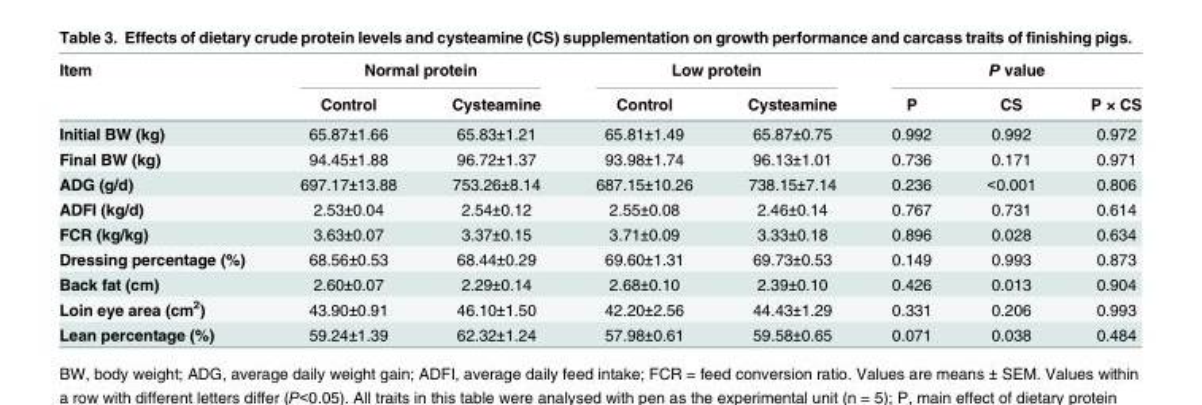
<table><thead><tr><td rowspan="2">Item</td><td colspan="2">Normal protein</td><td colspan="2">Low protein</td><td colspan="3">P value</td></tr><tr><td>Control</td><td>Cysteamine</td><td>Control</td><td>Cysteamine</td><td>P</td><td>CS</td><td>P × CS</td></tr></thead><tbody><tr><td>Initial BW (kg)</td><td>65.87±1.66</td><td>65.83±1.21</td><td>65.81±1.49</td><td>65.87±0.75</td><td>0.992</td><td>0.992</td><td>0.972</td></tr><tr><td>Final BW (kg)</td><td>94.45±1.88</td><td>96.72±1.37</td><td>93.98±1.74</td><td>96.13±1.01</td><td>0.736</td><td>0.171</td><td>0.971</td></tr><tr><td>ADG (g/d)</td><td>697.17±13.88</td><td>753.26±8.14</td><td>687.15±10.26</td><td>738.15±7.14</td><td>0.236</td><td>&lt;0.001</td><td>0.806</td></tr><tr><td>ADFI (kg/d)</td><td>2.53±0.04</td><td>2.54±0.12</td><td>2.55±0.08</td><td>2.46±0.14</td><td>0.767</td><td>0.731</td><td>0.614</td></tr><tr><td>FCR (kg/kg)</td><td>3.63±0.07</td><td>3.37±0.15</td><td>3.71±0.09</td><td>3.33±0.18</td><td>0.896</td><td>0.028</td><td>0.634</td></tr><tr><td>Dressing percentage (%)</td><td>68.56±0.53</td><td>68.44±0.29</td><td>69.60±1.31</td><td>69.73±0.53</td><td>0.149</td><td>0.993</td><td>0.873</td></tr><tr><td>Back fat (cm)</td><td>2.60±0.07</td><td>2.29±0.14</td><td>2.68±0.10</td><td>2.39±0.10</td><td>0.426</td><td>0.013</td><td>0.904</td></tr><tr><td>Loin eye area (cm<sup>2</sup>)</td><td>43.90±0.91</td><td>46.10±1.50</td><td>42.20±2.56</td><td>44.43±1.29</td><td>0.331</td><td>0.206</td><td>0.993</td></tr><tr><td>Lean percentage (%)</td><td>59.24±1.39</td><td>62.32±1.24</td><td>57.98±0.61</td><td>59.58±0.65</td><td>0.071</td><td>0.038</td><td>0.484</td></tr></tbody></table>